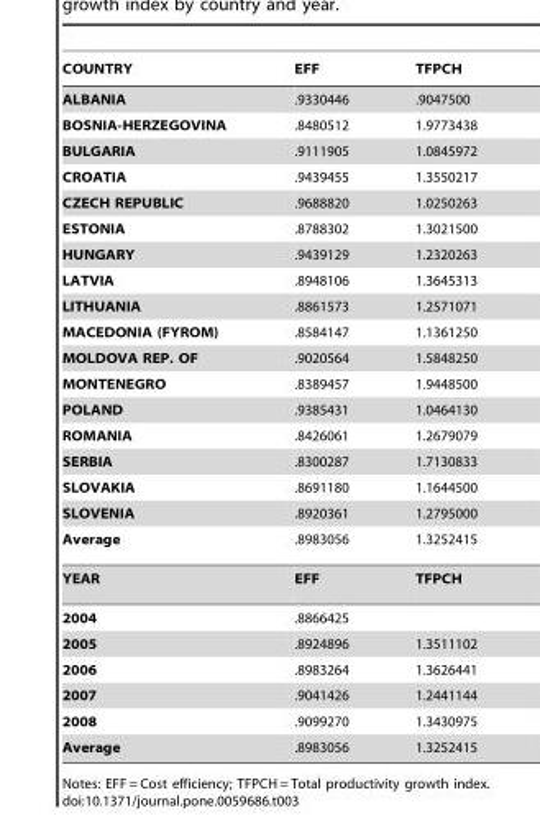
<table><thead><tr><td>COUNTRY</td><td>EFF</td><td>TFPCH</td></tr></thead><tbody><tr><td>ALBANIA</td><td>.9330446</td><td>.9047500</td></tr><tr><td>BOSNIA-HERZEGOVINA</td><td>.8480512</td><td>1.9773438</td></tr><tr><td>BULGARIA</td><td>.9111905</td><td>1.0845972</td></tr><tr><td>CROATIA</td><td>.9439455</td><td>1.3550217</td></tr><tr><td>CZECH REPUBLIC</td><td>.9688820</td><td>1.0250263</td></tr><tr><td>ESTONIA</td><td>.8788302</td><td>1.3021500</td></tr><tr><td>HUNGARY</td><td>.9439129</td><td>1.2320263</td></tr><tr><td>LATVIA</td><td>.8948106</td><td>1.3645313</td></tr><tr><td>LITHUANIA</td><td>.8861573</td><td>1.2571071</td></tr><tr><td>MACEDONIA (FYROM)</td><td>.8584147</td><td>1.1361250</td></tr><tr><td>MOLDOVA REP. OF</td><td>.9020564</td><td>1.5848250</td></tr><tr><td>MONTENEGRO</td><td>.8389457</td><td>1.9448500</td></tr><tr><td>POLAND</td><td>.9385431</td><td>1.0464130</td></tr><tr><td>ROMANIA</td><td>.8426061</td><td>1.2679079</td></tr><tr><td>SERBIA</td><td>.8300287</td><td>1.7130833</td></tr><tr><td>SLOVAKIA</td><td>.8691180</td><td>1.1644500</td></tr><tr><td>SLOVENIA</td><td>.8920361</td><td>1.2795000</td></tr><tr><td>Average</td><td>.8983056</td><td>1.3252415</td></tr><tr><td>YEAR</td><td>EFF</td><td>TFPCH</td></tr><tr><td>2004</td><td>.8866425</td><td></td></tr><tr><td>2005</td><td>.8924896</td><td>1.3511102</td></tr><tr><td>2006</td><td>.8983264</td><td>1.3626441</td></tr><tr><td>2007</td><td>.9041426</td><td>1.2441144</td></tr><tr><td>2008</td><td>.9099270</td><td>1.3430975</td></tr><tr><td>Average</td><td>.8983056</td><td>1.3252415</td></tr></tbody></table>